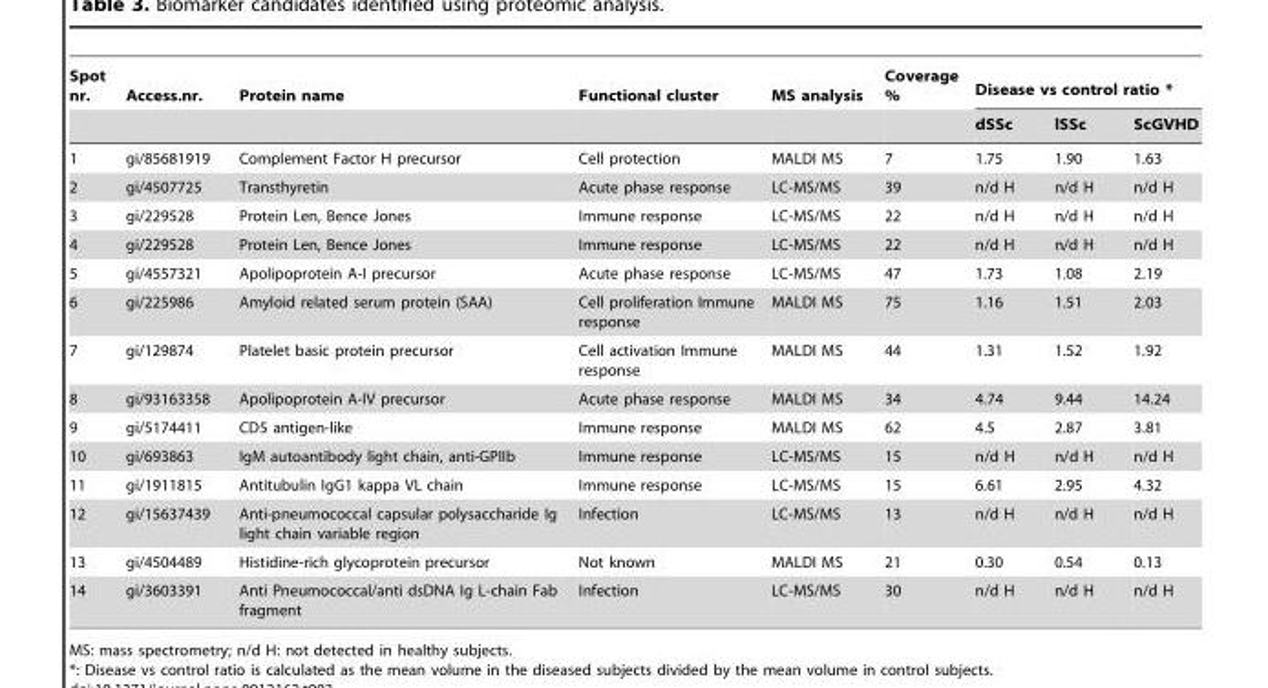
<table><thead><tr><td rowspan="2">Spot nr.</td><td rowspan="2">Access.nr.</td><td rowspan="2">Protein name</td><td rowspan="2">Functional cluster</td><td rowspan="2">MS analysis</td><td rowspan="2">Coverage %</td><td colspan="3">Disease vs control ratio *</td></tr><tr><td>dSSc</td><td>lSSc</td><td>ScGVHD</td></tr></thead><tbody><tr><td>1</td><td>gi/85681919</td><td>Complement Factor H precursor</td><td>Cell protection</td><td>MALDI MS</td><td>7</td><td>1.75</td><td>1.90</td><td>1.63</td></tr><tr><td>2</td><td>gi/4507725</td><td>Transthyretin</td><td>Acute phase response</td><td>LC-MS/MS</td><td>39</td><td>n/d H</td><td>n/d H</td><td>n/d H</td></tr><tr><td>3</td><td>gi/229528</td><td>Protein Len, Bence Jones</td><td>Immune response</td><td>LC-MS/MS</td><td>22</td><td>n/d H</td><td>n/d H</td><td>n/d H</td></tr><tr><td>4</td><td>gi/229528</td><td>Protein Len, Bence Jones</td><td>Immune response</td><td>LC-MS/MS</td><td>22</td><td>n/d H</td><td>n/d H</td><td>n/d H</td></tr><tr><td>5</td><td>gi/4557321</td><td>Apolipoprotein A-I precursor</td><td>Acute phase response</td><td>LC-MS/MS</td><td>47</td><td>1.73</td><td>1.08</td><td>2.19</td></tr><tr><td>6</td><td>gi/225986</td><td>Amyloid related serum protein (SAA)</td><td>Cell proliferation Immune response</td><td>MALDI MS</td><td>75</td><td>1.16</td><td>1.51</td><td>2.03</td></tr><tr><td>7</td><td>gi/129874</td><td>Platelet basic protein precursor</td><td>Cell activation Immune response</td><td>MALDI MS</td><td>44</td><td>1.31</td><td>1.52</td><td>1.92</td></tr><tr><td>8</td><td>gi/93163358</td><td>Apolipoprotein A-IV precursor</td><td>Acute phase response</td><td>MALDI MS</td><td>34</td><td>4.74</td><td>9.44</td><td>14.24</td></tr><tr><td>9</td><td>gi/5174411</td><td>CD5 antigen-like</td><td>Immune response</td><td>MALDI MS</td><td>62</td><td>4.5</td><td>2.87</td><td>3.81</td></tr><tr><td>10</td><td>gi/693863</td><td>IgM autoantibody light chain, anti-GPIIb</td><td>Immune response</td><td>LC-MS/MS</td><td>15</td><td>n/d H</td><td>n/d H</td><td>n/d H</td></tr><tr><td>11</td><td>gi/1911815</td><td>Antitubulin IgG1 kappa VL chain</td><td>Immune response</td><td>LC-MS/MS</td><td>15</td><td>6.61</td><td>2.95</td><td>4.32</td></tr><tr><td>12</td><td>gi/15637439</td><td>Anti-pneumococcal capsular polysaccharide Ig light chain variable region</td><td>Infection</td><td>LC-MS/MS</td><td>13</td><td>n/d H</td><td>n/d H</td><td>n/d H</td></tr><tr><td>13</td><td>gi/4504489</td><td>Histidine-rich glycoprotein precursor</td><td>Not known</td><td>MALDI MS</td><td>21</td><td>0.30</td><td>0.54</td><td>0.13</td></tr><tr><td>14</td><td>gi/3603391</td><td>Anti Pneumococcal/anti dsDNA Ig L-chain Fab fragment</td><td>Infection</td><td>LC-MS/MS</td><td>30</td><td>n/d H</td><td>n/d H</td><td>n/d H</td></tr></tbody></table>